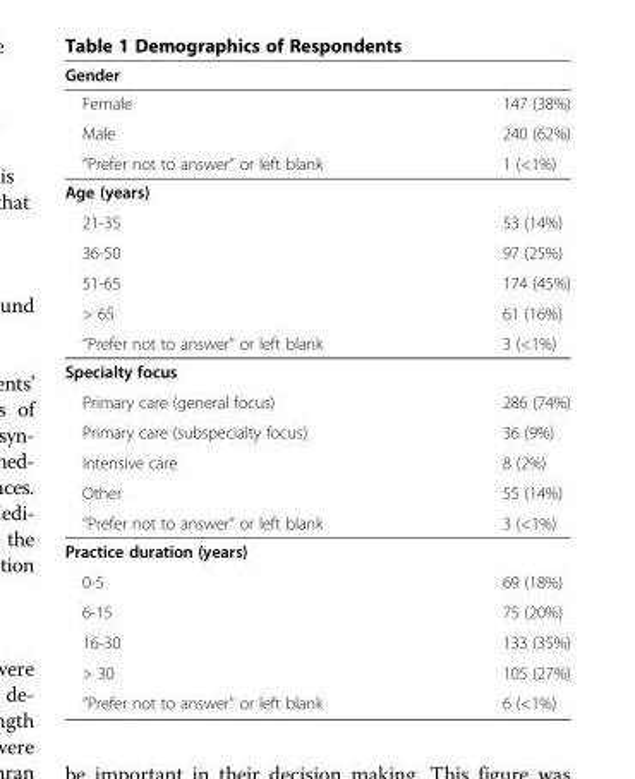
<table><thead><tr><td colspan="2">Gender</td></tr><tr><td>Female</td><td>147 (38%)</td></tr></thead><tbody><tr><td>Male</td><td>240 (62%)</td></tr><tr><td>“Prefer not to answer” or left blank</td><td>1 (&lt;1%)</td></tr><tr><td colspan="2">Age (years)</td></tr><tr><td>21-35</td><td>53 (14%)</td></tr><tr><td>36-50</td><td>97 (25%)</td></tr><tr><td>51-65</td><td>174 (45%)</td></tr><tr><td>&gt; 65</td><td>61 (16%)</td></tr><tr><td>“Prefer not to answer” or left blank</td><td>3 (&lt;1%)</td></tr><tr><td colspan="2">Specialty focus</td></tr><tr><td>Primary care (general focus)</td><td>286 (74%)</td></tr><tr><td>Primary care (subspecialty focus)</td><td>36 (9%)</td></tr><tr><td>Intensive care</td><td>8 (2%)</td></tr><tr><td>Other</td><td>55 (14%)</td></tr><tr><td>“Prefer not to answer” or left blank</td><td>3 (&lt;1%)</td></tr><tr><td colspan="2">Practice duration (years)</td></tr><tr><td>0-5</td><td>69 (18%)</td></tr><tr><td>6-15</td><td>75 (20%)</td></tr><tr><td>16-30</td><td>133 (35%)</td></tr><tr><td>&gt; 30</td><td>105 (27%)</td></tr><tr><td>“Prefer not to answer” or left blank</td><td>6 (&lt;1%)</td></tr></tbody></table>